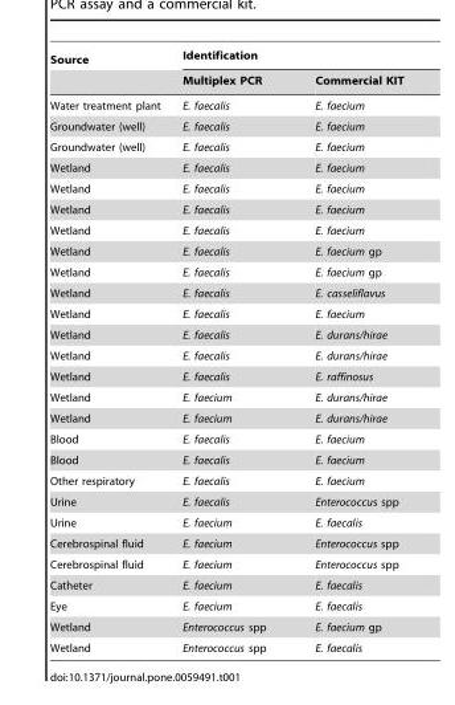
<table><thead><tr><td rowspan="2">Source</td><td colspan="2">Identification</td></tr><tr><td>Multiplex PCR</td><td>Commercial KIT</td></tr></thead><tbody><tr><td>Water treatment plant</td><td>E. faecalis</td><td>E. faecium</td></tr><tr><td>Groundwater (well)</td><td>E. faecalis</td><td>E. faecium</td></tr><tr><td>Groundwater (well)</td><td>E. faecalis</td><td>E. faecium</td></tr><tr><td>Wetland</td><td>E. faecalis</td><td>E. faecium</td></tr><tr><td>Wetland</td><td>E. faecalis</td><td>E. faecium</td></tr><tr><td>Wetland</td><td>E. faecalis</td><td>E. faecium</td></tr><tr><td>Wetland</td><td>E. faecalis</td><td>E. faecium</td></tr><tr><td>Wetland</td><td>E. faecalis</td><td>E. faecium gp</td></tr><tr><td>Wetland</td><td>E. faecalis</td><td>E. faecium gp</td></tr><tr><td>Wetland</td><td>E. faecalis</td><td>E. casseliflavus</td></tr><tr><td>Wetland</td><td>E. faecalis</td><td>E. faecium</td></tr><tr><td>Wetland</td><td>E. faecalis</td><td>E. durans/hirae</td></tr><tr><td>Wetland</td><td>E. faecalis</td><td>E. durans/hirae</td></tr><tr><td>Wetland</td><td>E. faecalis</td><td>E. raffinosus</td></tr><tr><td>Wetland</td><td>E. faecium</td><td>E. durans/hirae</td></tr><tr><td>Wetland</td><td>E. faecium</td><td>E. durans/hirae</td></tr><tr><td>Blood</td><td>E. faecalis</td><td>E. faecium</td></tr><tr><td>Blood</td><td>E. faecalis</td><td>E. faecium</td></tr><tr><td>Other respiratory</td><td>E. faecalis</td><td>E. faecium</td></tr><tr><td>Urine</td><td>E. faecalis</td><td>Enterococcus spp</td></tr><tr><td>Urine</td><td>E. faecium</td><td>E. faecalis</td></tr><tr><td>Cerebrospinal fluid</td><td>E. faecium</td><td>Enterococcus spp</td></tr><tr><td>Cerebrospinal fluid</td><td>E. faecium</td><td>Enterococcus spp</td></tr><tr><td>Catheter</td><td>E. faecium</td><td>E. faecalis</td></tr><tr><td>Eye</td><td>E. faecium</td><td>E. faecalis</td></tr><tr><td>Wetland</td><td>Enterococcus spp</td><td>E. faecium gp</td></tr><tr><td>Wetland</td><td>Enterococcus spp</td><td>E. faecalis</td></tr></tbody></table>